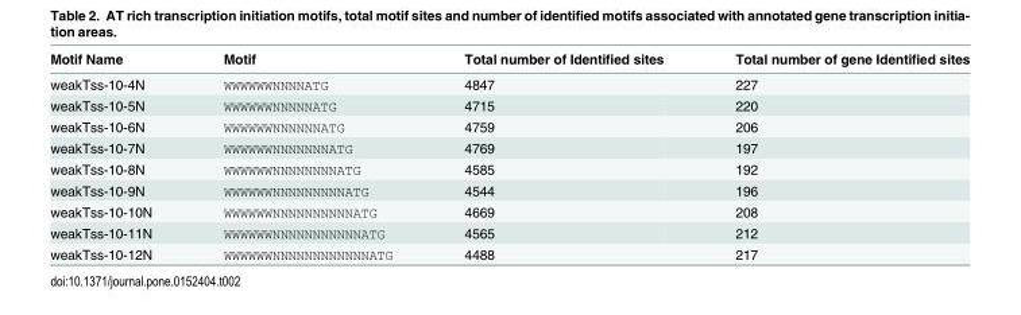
<table><thead><tr><td>Motif Name</td><td>Motif</td><td>Total number of Identified sites</td><td>Total number of gene Identified sites</td></tr></thead><tbody><tr><td>weakTss-10-4N</td><td>WWWWWWNNNNATG</td><td>4847</td><td>227</td></tr><tr><td>weakTss-10-5N</td><td>WWWWWWNNNNNATG</td><td>4715</td><td>220</td></tr><tr><td>weakTss-10-6N</td><td>WWWWWWNNNNNNATG</td><td>4759</td><td>206</td></tr><tr><td>weakTss-10-7N</td><td>WWWWWWNNNNNNNATG</td><td>4769</td><td>197</td></tr><tr><td>weakTss-10-8N</td><td>WWWWWWNNNNNNNNATG</td><td>4585</td><td>192</td></tr><tr><td>weakTss-10-9N</td><td>WWWWWWNNNNNNNNNATG</td><td>4544</td><td>196</td></tr><tr><td>weakTss-10-10N</td><td>WWWWWWNNNNNNNNNNATG</td><td>4669</td><td>208</td></tr><tr><td>weakTss-10-11N</td><td>WWWWWWNNNNNNNNNNNATG</td><td>4565</td><td>212</td></tr><tr><td>weakTss-10-12N</td><td>WWWWWWNNNNNNNNNNNNATG</td><td>4488</td><td>217</td></tr></tbody></table>